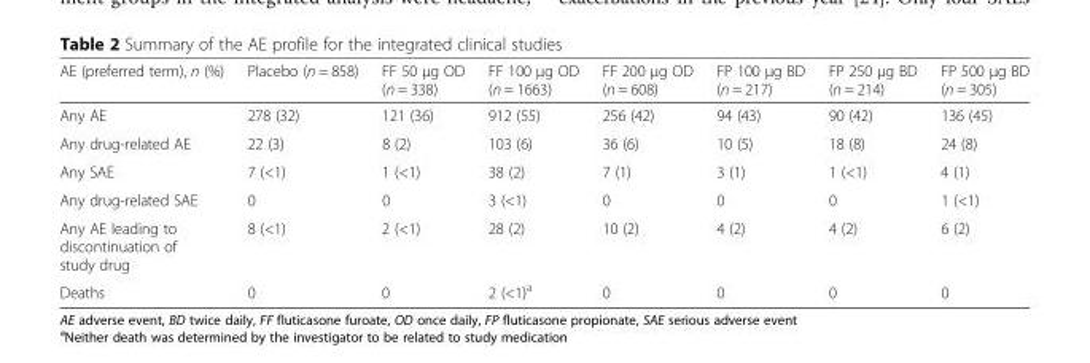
<table><thead><tr><td>AE (preferred term), n (%)</td><td>Placebo (n = 858)</td><td>FF 50 μg OD (n = 338)</td><td>FF 100 μg OD (n = 1663)</td><td>FF 200 μg OD (n = 608)</td><td>FP 100 μg BD (n = 217)</td><td>FP 250 μg BD (n = 214)</td><td>FP 500 μg BD (n = 305)</td></tr></thead><tbody><tr><td>Any AE</td><td>278 (32)</td><td>121 (36)</td><td>912 (55)</td><td>256 (42)</td><td>94 (43)</td><td>90 (42)</td><td>136 (45)</td></tr><tr><td>Any drug-related AE</td><td>22 (3)</td><td>8 (2)</td><td>103 (6)</td><td>36 (6)</td><td>10 (5)</td><td>18 (8)</td><td>24 (8)</td></tr><tr><td>Any SAE</td><td>7 (&lt;1)</td><td>1 (&lt;1)</td><td>38 (2)</td><td>7 (1)</td><td>3 (1)</td><td>1 (&lt;1)</td><td>4 (1)</td></tr><tr><td>Any drug-related SAE</td><td>0</td><td>0</td><td>3 (&lt;1)</td><td>0</td><td>0</td><td>0</td><td>1 (&lt;1)</td></tr><tr><td>Any AE leading to discontinuation of study drug</td><td>8 (&lt;1)</td><td>2 (&lt;1)</td><td>28 (2)</td><td>10 (2)</td><td>4 (2)</td><td>4 (2)</td><td>6 (2)</td></tr><tr><td>Deaths</td><td>0</td><td>0</td><td>2 (&lt;1)<sup>a</sup></td><td>0</td><td>0</td><td>0</td><td>0</td></tr></tbody></table>